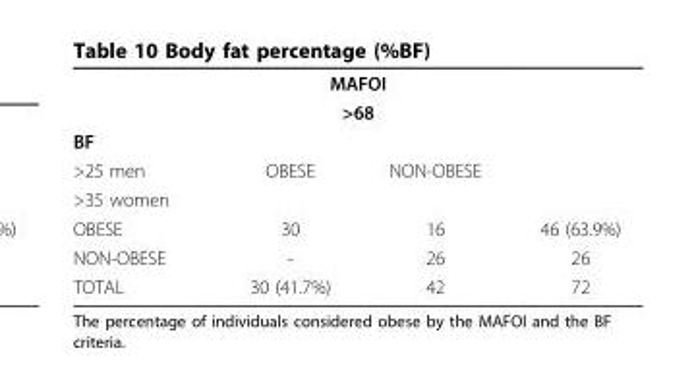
<table><tbody><tr><td colspan="4">MAFOI</td></tr><tr><td colspan="4">&gt;68</td></tr><tr><td colspan="4">BF</td></tr><tr><td>&gt;25 men</td><td>OBESE</td><td>NON-OBESE</td><td></td></tr><tr><td colspan="4">&gt;35 women</td></tr><tr><td>OBESE</td><td>30</td><td>16</td><td>46 (63.9%)</td></tr><tr><td>NON-OBESE</td><td>-</td><td>26</td><td>26</td></tr><tr><td>TOTAL</td><td>30 (41.7%)</td><td>42</td><td>72</td></tr></tbody></table>